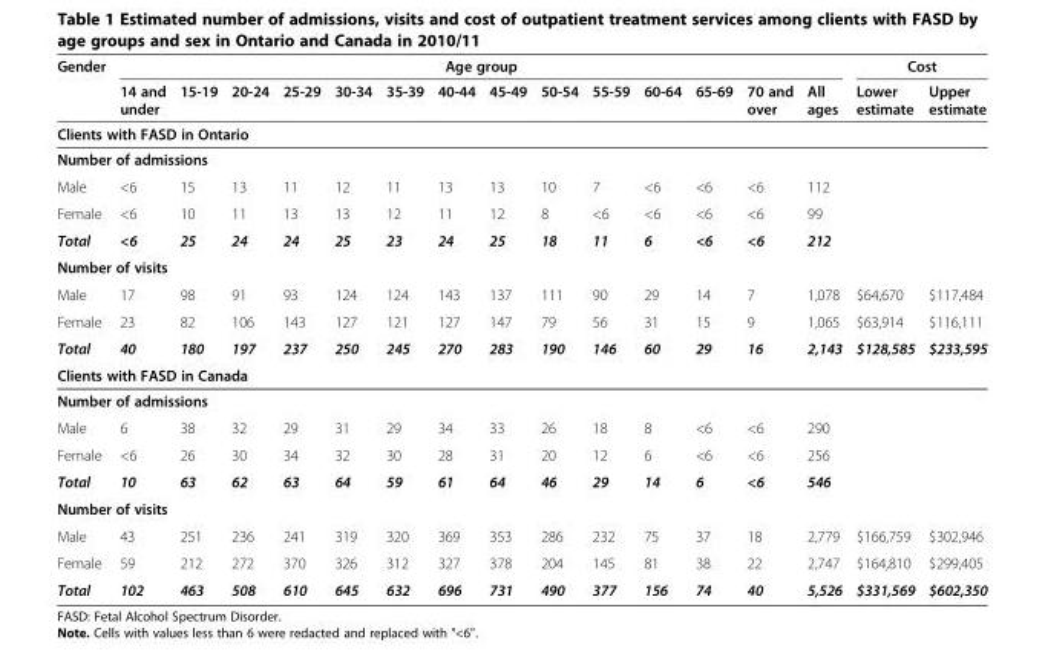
<table><thead><tr><td rowspan="2">Gender</td><td colspan="14">Age group</td><td colspan="2">Cost</td></tr><tr><td>14 and under</td><td>15-19</td><td>20-24</td><td>25-29</td><td>30-34</td><td>35-39</td><td>40-44</td><td>45-49</td><td>50-54</td><td>55-59</td><td>60-64</td><td>65-69</td><td>70 and over</td><td>All ages</td><td>Lower estimate</td><td>Upper estimate</td></tr></thead><tbody><tr><td colspan="17">Clients with FASD in Ontario</td></tr><tr><td colspan="17">Number of admissions</td></tr><tr><td>Male</td><td>&lt;6</td><td>15</td><td>13</td><td>11</td><td>12</td><td>11</td><td>13</td><td>13</td><td>10</td><td>7</td><td>&lt;6</td><td>&lt;6</td><td>&lt;6</td><td>112</td><td></td><td></td></tr><tr><td>Female</td><td>&lt;6</td><td>10</td><td>11</td><td>13</td><td>13</td><td>12</td><td>11</td><td>12</td><td>8</td><td>&lt;6</td><td>&lt;6</td><td>&lt;6</td><td>&lt;6</td><td>99</td><td></td><td></td></tr><tr><td>Total</td><td>&lt;6</td><td>25</td><td>24</td><td>24</td><td>25</td><td>23</td><td>24</td><td>25</td><td>18</td><td>11</td><td>6</td><td>&lt;6</td><td>&lt;6</td><td>212</td><td></td><td></td></tr><tr><td colspan="17">Number of visits</td></tr><tr><td>Male</td><td>17</td><td>98</td><td>91</td><td>93</td><td>124</td><td>124</td><td>143</td><td>137</td><td>111</td><td>90</td><td>29</td><td>14</td><td>7</td><td>1,078</td><td>$64,670</td><td>$117,484</td></tr><tr><td>Female</td><td>23</td><td>82</td><td>106</td><td>143</td><td>127</td><td>121</td><td>127</td><td>147</td><td>79</td><td>56</td><td>31</td><td>15</td><td>9</td><td>1,065</td><td>$63,914</td><td>$116,111</td></tr><tr><td>Total</td><td>40</td><td>180</td><td>197</td><td>237</td><td>250</td><td>245</td><td>270</td><td>283</td><td>190</td><td>146</td><td>60</td><td>29</td><td>16</td><td>2,143</td><td>$128,585</td><td>$233,595</td></tr><tr><td colspan="17">Clients with FASD in Canada</td></tr><tr><td colspan="17">Number of admissions</td></tr><tr><td>Male</td><td>6</td><td>38</td><td>32</td><td>29</td><td>31</td><td>29</td><td>34</td><td>33</td><td>26</td><td>18</td><td>8</td><td>&lt;6</td><td>&lt;6</td><td>290</td><td></td><td></td></tr><tr><td>Female</td><td>&lt;6</td><td>26</td><td>30</td><td>34</td><td>32</td><td>30</td><td>28</td><td>31</td><td>20</td><td>12</td><td>6</td><td>&lt;6</td><td>&lt;6</td><td>256</td><td></td><td></td></tr><tr><td>Total</td><td>10</td><td>63</td><td>62</td><td>63</td><td>64</td><td>59</td><td>61</td><td>64</td><td>46</td><td>29</td><td>14</td><td>6</td><td>&lt;6</td><td>546</td><td></td><td></td></tr><tr><td colspan="17">Number of visits</td></tr><tr><td>Male</td><td>43</td><td>251</td><td>236</td><td>241</td><td>319</td><td>320</td><td>369</td><td>353</td><td>286</td><td>232</td><td>75</td><td>37</td><td>18</td><td>2,779</td><td>$166,759</td><td>$302,946</td></tr><tr><td>Female</td><td>59</td><td>212</td><td>272</td><td>370</td><td>326</td><td>312</td><td>327</td><td>378</td><td>204</td><td>145</td><td>81</td><td>38</td><td>22</td><td>2,747</td><td>$164,810</td><td>$299,405</td></tr><tr><td>Total</td><td>102</td><td>463</td><td>508</td><td>610</td><td>645</td><td>632</td><td>696</td><td>731</td><td>490</td><td>377</td><td>156</td><td>74</td><td>40</td><td>5,526</td><td>$331,569</td><td>$602,350</td></tr></tbody></table>